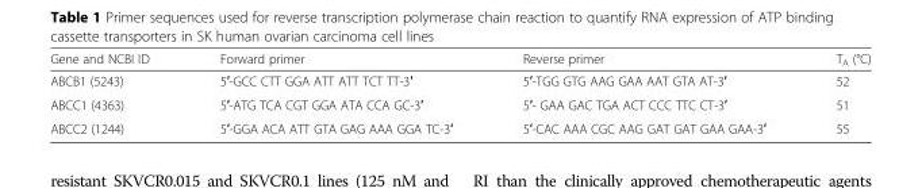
<table><thead><tr><td>Gene and NCBI ID</td><td>Forward primer</td><td>Reverse primer</td><td>T<sub>A</sub> (°C)</td></tr></thead><tbody><tr><td>ABCB1 (5243)</td><td>5′-GCC CTT GGA ATT ATT TCT TT-3′</td><td>5′-TGG GTG AAG GAA AAT GTA AT-3′</td><td>52</td></tr><tr><td>ABCC1 (4363)</td><td>5′-ATG TCA CGT GGA ATA CCA GC-3′</td><td>5′- GAA GAC TGA ACT CCC TTC CT-3′</td><td>51</td></tr><tr><td>ABCC2 (1244)</td><td>5′-GGA ACA ATT GTA GAG AAA GGA TC-3′</td><td>5′-CAC AAA CGC AAG GAT GAT GAA GAA-3′</td><td>55</td></tr></tbody></table>